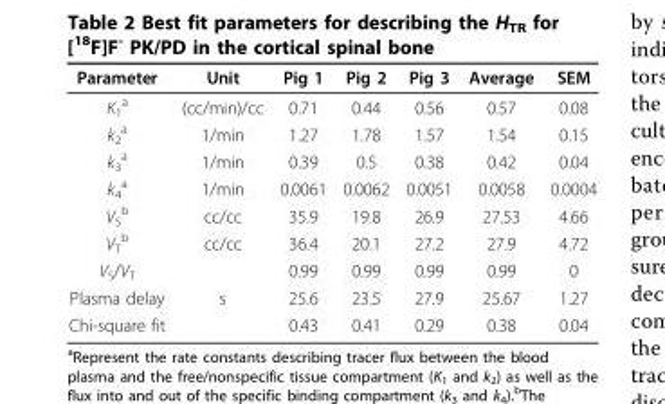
<table><thead><tr><td>Parameter</td><td>Unit</td><td>Pig 1</td><td>Pig 2</td><td>Pig 3</td><td>Average</td><td>SEM</td></tr></thead><tbody><tr><td>K<sub>1</sub> <sup>a</sup></td><td>(cc/min)/cc</td><td>0.71</td><td>0.44</td><td>0.56</td><td>0.57</td><td>0.08</td></tr><tr><td>k<sub>2</sub> <sup>a</sup></td><td>1/min</td><td>1.27</td><td>1.78</td><td>1.57</td><td>1.54</td><td>0.15</td></tr><tr><td>k<sub>3</sub> <sup>a</sup></td><td>1/min</td><td>0.39</td><td>0.5</td><td>0.38</td><td>0.42</td><td>0.04</td></tr><tr><td>k<sub>4</sub> <sup>a</sup></td><td>1/min</td><td>0.0061</td><td>0.0062</td><td>0.0051</td><td>0.0058</td><td>0.0004</td></tr><tr><td>V<sub>S</sub> <sup>b</sup></td><td>cc/cc</td><td>35.9</td><td>19.8</td><td>26.9</td><td>27.53</td><td>4.66</td></tr><tr><td>V<sub>T</sub> <sup>b</sup></td><td>cc/cc</td><td>36.4</td><td>20.1</td><td>27.2</td><td>27.9</td><td>4.72</td></tr><tr><td>V<sub>S</sub>/V<sub>T</sub></td><td></td><td>0.99</td><td>0.99</td><td>0.99</td><td>0.99</td><td>0</td></tr><tr><td>Plasma delay</td><td>s</td><td>25.6</td><td>23.5</td><td>27.9</td><td>25.67</td><td>1.27</td></tr><tr><td>Chi-square fit</td><td></td><td>0.43</td><td>0.41</td><td>0.29</td><td>0.38</td><td>0.04</td></tr></tbody></table>